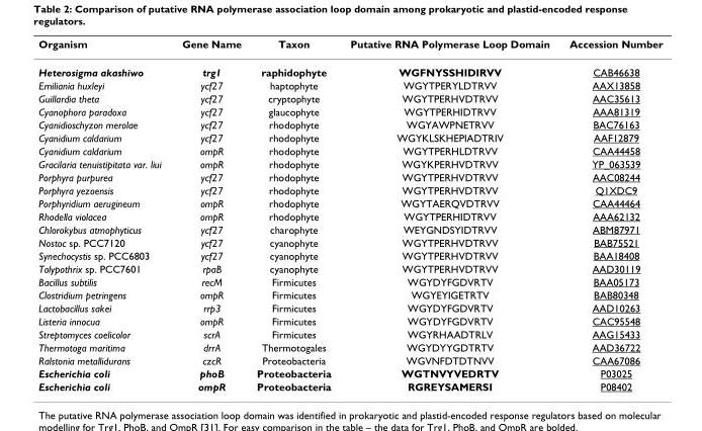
<table><thead><tr><td>Organism</td><td>Gene Name</td><td>Taxon</td><td>Putative RNA Polymerase Loop Domain</td><td>Accession Number</td></tr></thead><tbody><tr><td>Heterosigma akashiwo</td><td>trg1</td><td>raphidophyte</td><td>WGFNYSSHIDIRVV</td><td>CAB46638</td></tr><tr><td>Emiliania huxleyi</td><td>ycf27</td><td>haptophyte</td><td>WGYTPERYLDTRVV</td><td>AAX13858</td></tr><tr><td>Guillardia theta</td><td>ycf27</td><td>cryptophyte</td><td>WGYTPERHVDTRVV</td><td>AAC35613</td></tr><tr><td>Cyanophora paradoxa</td><td>ycf27</td><td>glaucophyte</td><td>WGYTPERHIDTRVV</td><td>AAA81319</td></tr><tr><td>Cyanidioschyzon merolae</td><td>ycf27</td><td>rhodophyte</td><td>WGYAWPNETRVV</td><td>BAC76163</td></tr><tr><td>Cyanidium caldarium</td><td>ycf27</td><td>rhodophyte</td><td>WGYKLSKHEPIADTRIV</td><td>AAF12879</td></tr><tr><td>Cyanidium caldarium</td><td>ompR</td><td>rhodophyte</td><td>WGYTPERHLDTRVV</td><td>CAA44458</td></tr><tr><td>Gracilaria tenuistipitata var. liui</td><td>ompR</td><td>rhodophyte</td><td>WGYKPERHVDTRVV</td><td>YP_063539</td></tr><tr><td>Porphyra purpurea</td><td>ycf27</td><td>rhodophyte</td><td>WGYTPERHVDTRVV</td><td>AAC08244</td></tr><tr><td>Porphyra yezoensis</td><td>ycf27</td><td>rhodophyte</td><td>WGYTPERHVDTRVV</td><td>Q1XDC9</td></tr><tr><td>Porphyridium aerugineum</td><td>ompR</td><td>rhodophyte</td><td>WGYTAERQVDTRVV</td><td>CAA44464</td></tr><tr><td>Rhodella violacea</td><td>ompR</td><td>rhodophyte</td><td>WGYTPERHIDTRVV</td><td>AAA62132</td></tr><tr><td>Chlorokybus atmophyticus</td><td>ycf27</td><td>charophyte</td><td>WEYGNDSYIDTRVV</td><td>ABM87971</td></tr><tr><td>Nostoc sp. PCC7120</td><td>ycf27</td><td>cyanophyte</td><td>WGYTPERHVDTRVV</td><td>BAB75521</td></tr><tr><td>Synechocystis sp. PCC6803</td><td>ycf27</td><td>cyanophyte</td><td>WGYTPERHVDTRVV</td><td>BAA18408</td></tr><tr><td>Tolypothrix sp. PCC7601</td><td>rpaB</td><td>cyanophyte</td><td>WGYTPERHVDTRVV</td><td>AAD30119</td></tr><tr><td>Bacillus subtilis</td><td>recM</td><td>Firmicutes</td><td>WGYDYFGDVRTV</td><td>BAA05173</td></tr><tr><td>Clostridium petringens</td><td>ompR</td><td>Firmicutes</td><td>WGYEYIGETRTV</td><td>BAB80348</td></tr><tr><td>Lactobacillus sakei</td><td>rrp3</td><td>Firmicutes</td><td>WGYDYFGDVRTV</td><td>AAD10263</td></tr><tr><td>Listeria innocua</td><td>ompR</td><td>Firmicutes</td><td>WGYDYFGDVRTV</td><td>CAC95548</td></tr><tr><td>Streptomyces coelicolor</td><td>scrA</td><td>Firmicutes</td><td>WGYRHAADTRLV</td><td>AAG15433</td></tr><tr><td>Thermotoga maritima</td><td>drrA</td><td>Thermotogales</td><td>WGYDYYGDTRTV</td><td>AAD36722</td></tr><tr><td>Ralstonia metallidurans</td><td>czcR</td><td>Proteobacteria</td><td>WGVNFDTDTNVV</td><td>CAA67086</td></tr><tr><td>Escherichia coli</td><td>phoB</td><td>Proteobacteria</td><td>WGTNVYVEDRTV</td><td>P03025</td></tr><tr><td>Escherichia coli</td><td>ompR</td><td>Proteobacteria</td><td>RGREYSAMERSI</td><td>P08402</td></tr></tbody></table>